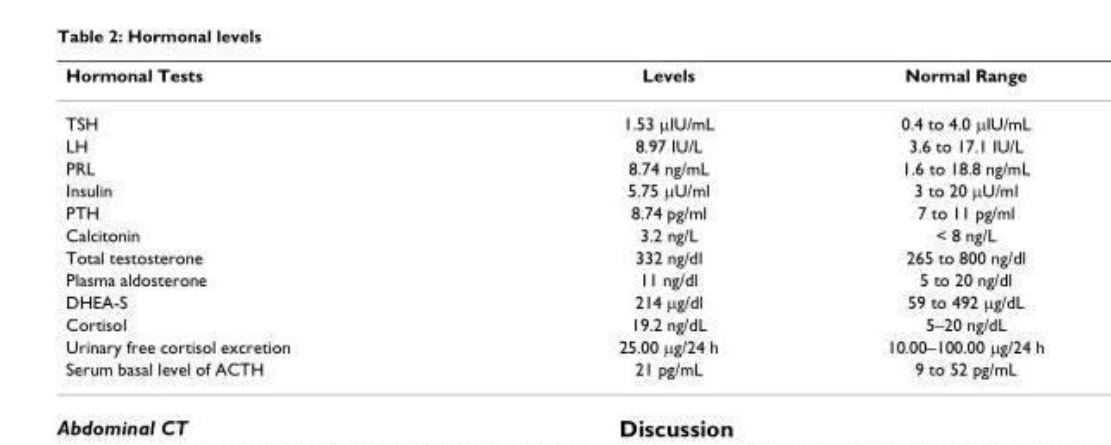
<table><thead><tr><td>Hormonal Tests</td><td>Levels</td><td>Normal Range</td></tr></thead><tbody><tr><td>TSH</td><td>1.53 µIU/mL</td><td>0.4 to 4.0 µIU/mL</td></tr><tr><td>LH</td><td>8.97 IU/L</td><td>3.6 to 17.1 IU/L</td></tr><tr><td>PRL</td><td>8.74 ng/mL</td><td>1.6 to 18.8 ng/mL</td></tr><tr><td>Insulin</td><td>5.75 µU/ml</td><td>3 to 20 µU/ml</td></tr><tr><td>PTH</td><td>8.74 pg/ml</td><td>7 to 11 pg/ml</td></tr><tr><td>Calcitonin</td><td>3.2 ng/L</td><td>&lt; 8 ng/L</td></tr><tr><td>Total testosterone</td><td>332 ng/dl</td><td>265 to 800 ng/dl</td></tr><tr><td>Plasma aldosterone</td><td>11 ng/dl</td><td>5 to 20 ng/dl</td></tr><tr><td>DHEA-S</td><td>214 µg/dl</td><td>59 to 492 µg/dL</td></tr><tr><td>Cortisol</td><td>19.2 ng/dL</td><td>5–20 ng/dL</td></tr><tr><td>Urinary free cortisol excretion</td><td>25.00 µg/24 h</td><td>10.00–100.00 µg/24 h</td></tr><tr><td>Serum basal level of ACTH</td><td>21 pg/mL</td><td>9 to 52 pg/mL</td></tr></tbody></table>